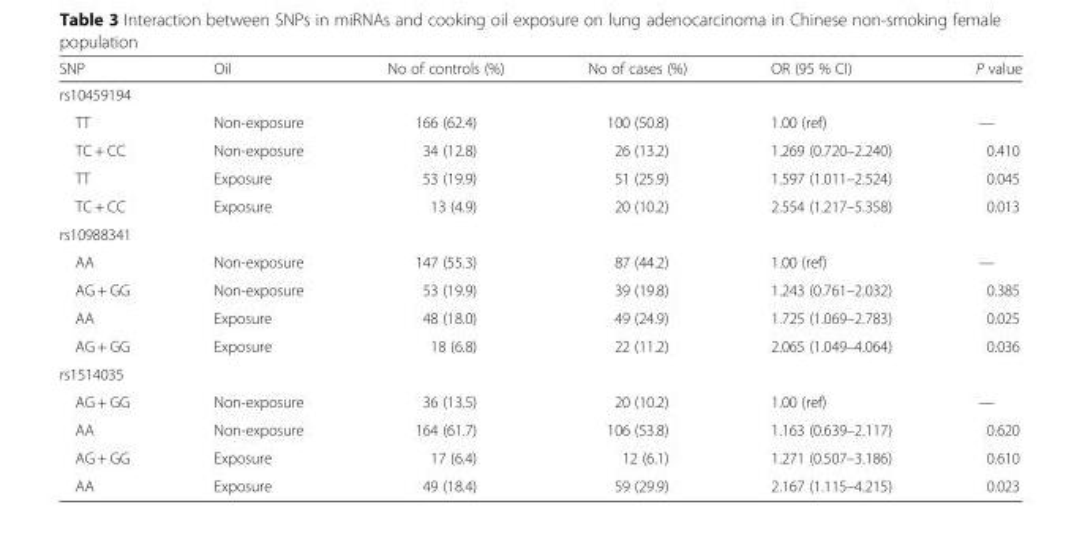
<table><thead><tr><td>SNP</td><td>Oil</td><td>No of controls (%)</td><td>No of cases (%)</td><td>OR (95 % CI)</td><td>P value</td></tr></thead><tbody><tr><td colspan="6">rs10459194</td></tr><tr><td>TT</td><td>Non-exposure</td><td>166 (62.4)</td><td>100 (50.8)</td><td>1.00 (ref)</td><td>—</td></tr><tr><td>TC + CC</td><td>Non-exposure</td><td>34 (12.8)</td><td>26 (13.2)</td><td>1.269 (0.720–2.240)</td><td>0.410</td></tr><tr><td>TT</td><td>Exposure</td><td>53 (19.9)</td><td>51 (25.9)</td><td>1.597 (1.011–2.524)</td><td>0.045</td></tr><tr><td>TC + CC</td><td>Exposure</td><td>13 (4.9)</td><td>20 (10.2)</td><td>2.554 (1.217–5.358)</td><td>0.013</td></tr><tr><td colspan="6">rs10988341</td></tr><tr><td>AA</td><td>Non-exposure</td><td>147 (55.3)</td><td>87 (44.2)</td><td>1.00 (ref)</td><td>—</td></tr><tr><td>AG + GG</td><td>Non-exposure</td><td>53 (19.9)</td><td>39 (19.8)</td><td>1.243 (0.761–2.032)</td><td>0.385</td></tr><tr><td>AA</td><td>Exposure</td><td>48 (18.0)</td><td>49 (24.9)</td><td>1.725 (1.069–2.783)</td><td>0.025</td></tr><tr><td>AG + GG</td><td>Exposure</td><td>18 (6.8)</td><td>22 (11.2)</td><td>2.065 (1.049–4.064)</td><td>0.036</td></tr><tr><td colspan="6">rs1514035</td></tr><tr><td>AG + GG</td><td>Non-exposure</td><td>36 (13.5)</td><td>20 (10.2)</td><td>1.00 (ref)</td><td>—</td></tr><tr><td>AA</td><td>Non-exposure</td><td>164 (61.7)</td><td>106 (53.8)</td><td>1.163 (0.639–2.117)</td><td>0.620</td></tr><tr><td>AG + GG</td><td>Exposure</td><td>17 (6.4)</td><td>12 (6.1)</td><td>1.271 (0.507–3.186)</td><td>0.610</td></tr><tr><td>AA</td><td>Exposure</td><td>49 (18.4)</td><td>59 (29.9)</td><td>2.167 (1.115–4.215)</td><td>0.023</td></tr></tbody></table>